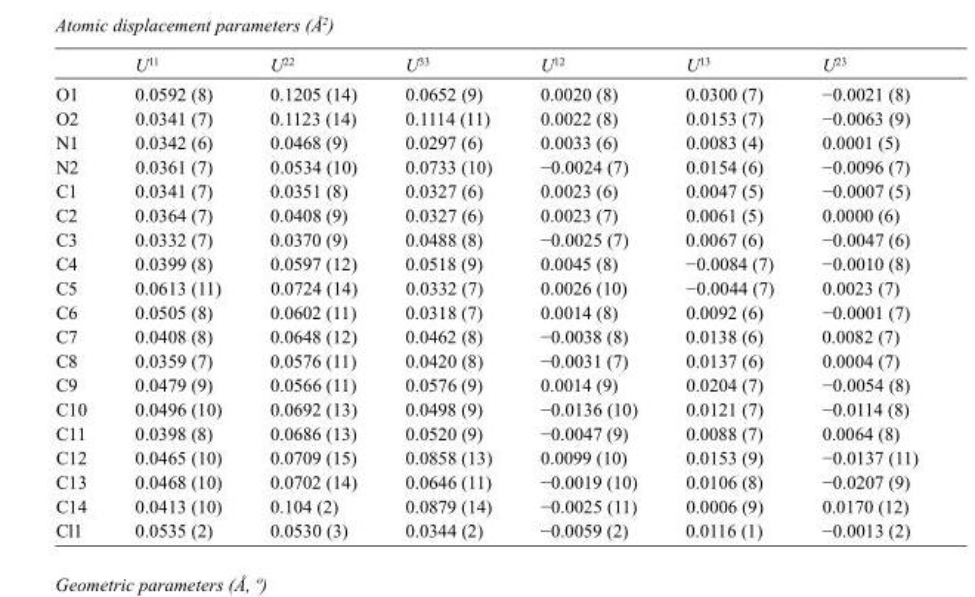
<table><thead><tr><td></td><td>U<sup>11</sup></td><td>U<sup>22</sup></td><td>U<sup>33</sup></td><td>U<sup>12</sup></td><td>U<sup>13</sup></td><td>U<sup>23</sup></td></tr></thead><tbody><tr><td>O1</td><td>0.0592 (8)</td><td>0.1205 (14)</td><td>0.0652 (9)</td><td>0.0020 (8)</td><td>0.0300 (7)</td><td>−0.0021 (8)</td></tr><tr><td>O2</td><td>0.0341 (7)</td><td>0.1123 (14)</td><td>0.1114 (11)</td><td>0.0022 (8)</td><td>0.0153 (7)</td><td>−0.0063 (9)</td></tr><tr><td>N1</td><td>0.0342 (6)</td><td>0.0468 (9)</td><td>0.0297 (6)</td><td>0.0033 (6)</td><td>0.0083 (4)</td><td>0.0001 (5)</td></tr><tr><td>N2</td><td>0.0361 (7)</td><td>0.0534 (10)</td><td>0.0733 (10)</td><td>−0.0024 (7)</td><td>0.0154 (6)</td><td>−0.0096 (7)</td></tr><tr><td>C1</td><td>0.0341 (7)</td><td>0.0351 (8)</td><td>0.0327 (6)</td><td>0.0023 (6)</td><td>0.0047 (5)</td><td>−0.0007 (5)</td></tr><tr><td>C2</td><td>0.0364 (7)</td><td>0.0408 (9)</td><td>0.0327 (6)</td><td>0.0023 (7)</td><td>0.0061 (5)</td><td>0.0000 (6)</td></tr><tr><td>C3</td><td>0.0332 (7)</td><td>0.0370 (9)</td><td>0.0488 (8)</td><td>−0.0025 (7)</td><td>0.0067 (6)</td><td>−0.0047 (6)</td></tr><tr><td>C4</td><td>0.0399 (8)</td><td>0.0597 (12)</td><td>0.0518 (9)</td><td>0.0045 (8)</td><td>−0.0084 (7)</td><td>−0.0010 (8)</td></tr><tr><td>C5</td><td>0.0613 (11)</td><td>0.0724 (14)</td><td>0.0332 (7)</td><td>0.0026 (10)</td><td>−0.0044 (7)</td><td>0.0023 (7)</td></tr><tr><td>C6</td><td>0.0505 (8)</td><td>0.0602 (11)</td><td>0.0318 (7)</td><td>0.0014 (8)</td><td>0.0092 (6)</td><td>−0.0001 (7)</td></tr><tr><td>C7</td><td>0.0408 (8)</td><td>0.0648 (12)</td><td>0.0462 (8)</td><td>−0.0038 (8)</td><td>0.0138 (6)</td><td>0.0082 (7)</td></tr><tr><td>C8</td><td>0.0359 (7)</td><td>0.0576 (11)</td><td>0.0420 (8)</td><td>−0.0031 (7)</td><td>0.0137 (6)</td><td>0.0004 (7)</td></tr><tr><td>C9</td><td>0.0479 (9)</td><td>0.0566 (11)</td><td>0.0576 (9)</td><td>0.0014 (9)</td><td>0.0204 (7)</td><td>−0.0054 (8)</td></tr><tr><td>C10</td><td>0.0496 (10)</td><td>0.0692 (13)</td><td>0.0498 (9)</td><td>−0.0136 (10)</td><td>0.0121 (7)</td><td>−0.0114 (8)</td></tr><tr><td>C11</td><td>0.0398 (8)</td><td>0.0686 (13)</td><td>0.0520 (9)</td><td>−0.0047 (9)</td><td>0.0088 (7)</td><td>0.0064 (8)</td></tr><tr><td>C12</td><td>0.0465 (10)</td><td>0.0709 (15)</td><td>0.0858 (13)</td><td>0.0099 (10)</td><td>0.0153 (9)</td><td>−0.0137 (11)</td></tr><tr><td>C13</td><td>0.0468 (10)</td><td>0.0702 (14)</td><td>0.0646 (11)</td><td>−0.0019 (10)</td><td>0.0106 (8)</td><td>−0.0207 (9)</td></tr><tr><td>C14</td><td>0.0413 (10)</td><td>0.104 (2)</td><td>0.0879 (14)</td><td>−0.0025 (11)</td><td>0.0006 (9)</td><td>0.0170 (12)</td></tr><tr><td>Cl1</td><td>0.0535 (2)</td><td>0.0530 (3)</td><td>0.0344 (2)</td><td>−0.0059 (2)</td><td>0.0116 (1)</td><td>−0.0013 (2)</td></tr></tbody></table>